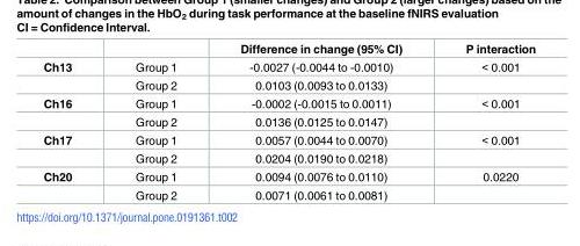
<table><thead><tr><td></td><td></td><td>Difference in change (95% CI)</td><td>P interaction</td></tr></thead><tbody><tr><td rowspan="2">Ch13</td><td>Group 1</td><td>-0.0027 (-0.0044 to -0.0010)</td><td>&lt; 0.001</td></tr><tr><td>Group 2</td><td>0.0103 (0.0093 to 0.0133)</td><td></td></tr><tr><td rowspan="2">Ch16</td><td>Group 1</td><td>-0.0002 (-0.0015 to 0.0011)</td><td>&lt; 0.001</td></tr><tr><td>Group 2</td><td>0.0136 (0.0125 to 0.0147)</td><td></td></tr><tr><td rowspan="2">Ch17</td><td>Group 1</td><td>0.0057 (0.0044 to 0.0070)</td><td>&lt; 0.001</td></tr><tr><td>Group 2</td><td>0.0204 (0.0190 to 0.0218)</td><td></td></tr><tr><td rowspan="2">Ch20</td><td>Group 1</td><td>0.0094 (0.0076 to 0.0110)</td><td>0.0220</td></tr><tr><td>Group 2</td><td>0.0071 (0.0061 to 0.0081)</td><td></td></tr></tbody></table>